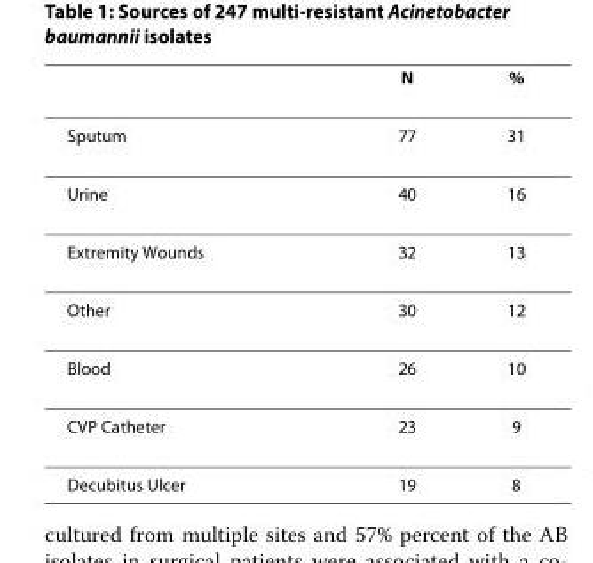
<table><thead><tr><td></td><td>N</td><td>%</td></tr></thead><tbody><tr><td>Sputum</td><td>77</td><td>31</td></tr><tr><td>Urine</td><td>40</td><td>16</td></tr><tr><td>Extremity Wounds</td><td>32</td><td>13</td></tr><tr><td>Other</td><td>30</td><td>12</td></tr><tr><td>Blood</td><td>26</td><td>10</td></tr><tr><td>CVP Catheter</td><td>23</td><td>9</td></tr><tr><td>Decubitus Ulcer</td><td>19</td><td>8</td></tr></tbody></table>